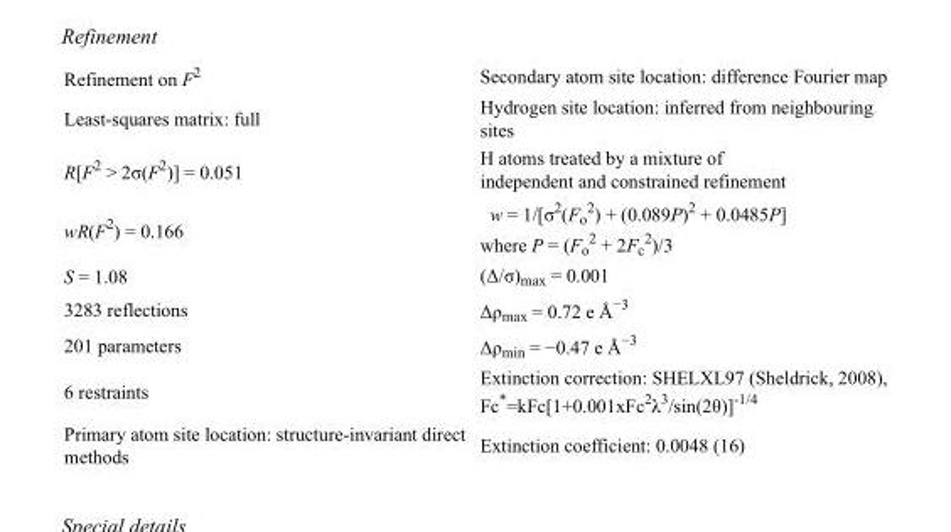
<table><tbody><tr><td>Refinement on F2</td><td>Secondary atom site location: difference Fourier map</td></tr><tr><td>Least-squares matrix: full</td><td>Hydrogen site location: inferred from neighbouring sites</td></tr><tr><td>R[F2 &gt; 2σ(F2)] = 0.051</td><td>H atoms treated by a mixture of independent and constrained refinement</td></tr><tr><td>wR(F2) = 0.166</td><td>w = 1/[σ2(Fo 2) + (0.089P)2 + 0.0485P] where P = (Fo 2 + 2Fc 2)/3</td></tr><tr><td>S = 1.08</td><td>(Δ/σ)max = 0.001</td></tr><tr><td>3283 reflections</td><td>Δρmax = 0.72 e Å−3</td></tr><tr><td>201 parameters</td><td>Δρmin = −0.47 e Å−3</td></tr><tr><td>6 restraints</td><td>Extinction correction: SHELXL97 (Sheldrick, 2008), Fc*=kFc[1+0.001xFc2λ3/sin(2θ)]-1/4</td></tr><tr><td>Primary atom site location: structure-invariant direct methods</td><td>Extinction coefficient: 0.0048 (16)</td></tr></tbody></table>